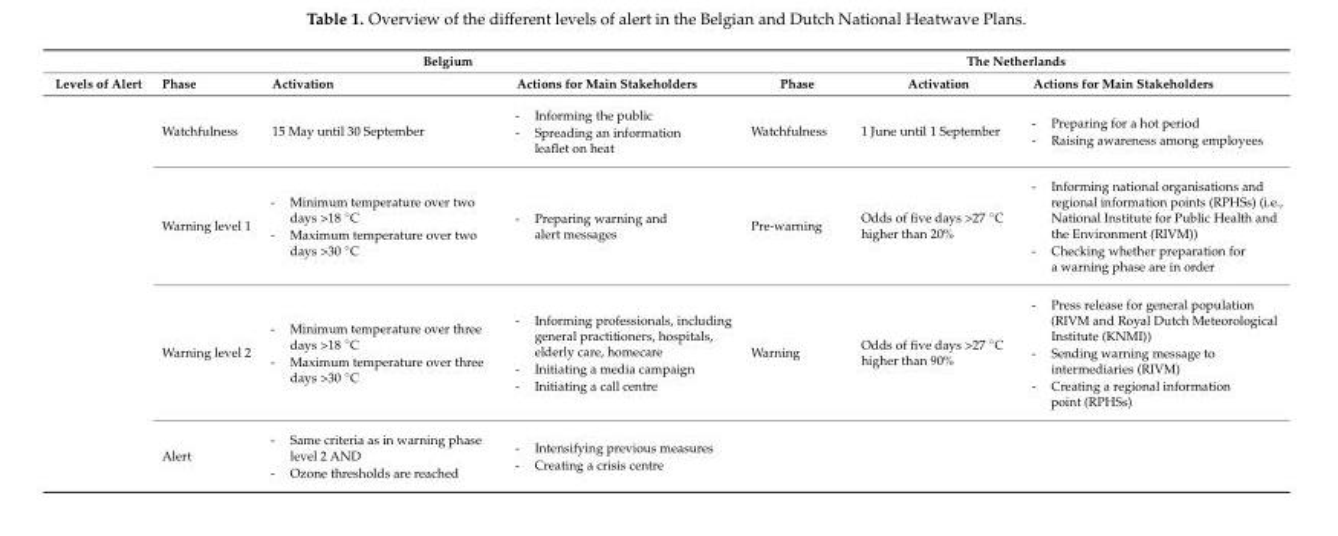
<table><thead><tr><td rowspan="2">Levels of Alert</td><td colspan="3">Belgium</td><td colspan="3">The Netherlands</td></tr><tr><td>Phase</td><td>Activation</td><td>Actions for Main Stakeholders</td><td>Phase</td><td>Activation</td><td>Actions for Main Stakeholders</td></tr></thead><tbody><tr><td></td><td>Watchfulness</td><td>15 May until 30 September</td><td>- Informing the public - Spreading an information leaflet on heat</td><td>Watchfulness</td><td>1 June until 1 September</td><td>- Preparing for a hot period - Raising awareness among employees</td></tr><tr><td></td><td>Warning level 1</td><td>- Minimum temperature over two days &gt;18 ◦C - Maximum temperature over two days &gt;30 ◦C</td><td>- Preparing warning and alert messages</td><td>Pre-warning</td><td>Odds of five days &gt;27 ◦C higher than 20%</td><td>- Informing national organisations and regional information points (RPHSs) (i.e., National Institute for Public Health and the Environment (RIVM)) - Checking whether preparation for a warning phase are in order</td></tr><tr><td></td><td>Warning level 2</td><td>- Minimum temperature over three days &gt;18 ◦C - Maximum temperature over three days &gt;30 ◦C</td><td>- Informing professionals, including general practitioners, hospitals, elderly care, homecare - Initiating a media campaign - Initiating a call centre</td><td>Warning</td><td>Odds of five days &gt;27 ◦C higher than 90%</td><td>- Press release for general population (RIVM and Royal Dutch Meteorological Institute (KNMI)) - Sending warning message to intermediaries (RIVM) - Creating a regional information point (RPHSs)</td></tr><tr><td></td><td>Alert</td><td>- Same criteria as in warning phase level 2 AND - Ozone thresholds are reached</td><td>- Intensifying previous measures - Creating a crisis centre</td><td></td><td></td><td></td></tr></tbody></table>